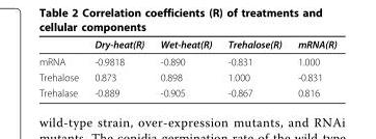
<table><thead><tr><td></td><td>Dry-heat(R)</td><td>Wet-heat(R)</td><td>Trehalose(R)</td><td>mRNA(R)</td></tr></thead><tbody><tr><td>mRNA</td><td>-0.9818</td><td>-0.890</td><td>-0.831</td><td>1.000</td></tr><tr><td>Trehalose</td><td>0.873</td><td>0.898</td><td>1.000</td><td>-0.831</td></tr><tr><td>Trehalase</td><td>-0.889</td><td>-0.905</td><td>-0.867</td><td>0.816</td></tr></tbody></table>